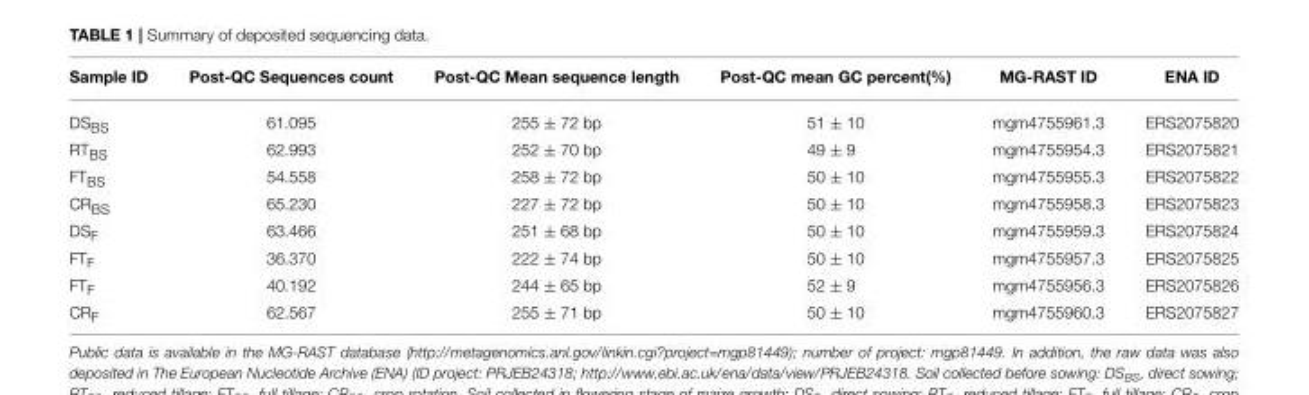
<table><thead><tr><td>Sample ID</td><td>Post-QC Sequences count</td><td>Post-QC Mean sequence length</td><td>Post-QC mean GC percent(%)</td><td>MG-RAST ID</td><td>ENA ID</td></tr></thead><tbody><tr><td>DS<sub>BS</sub></td><td>61.095</td><td>255 ± 72 bp</td><td>51 ± 10</td><td>mgm4755961.3</td><td>ERS2075820</td></tr><tr><td>RT<sub>BS</sub></td><td>62.993</td><td>252 ± 70 bp</td><td>49 ± 9</td><td>mgm4755954.3</td><td>ERS2075821</td></tr><tr><td>FT<sub>BS</sub></td><td>54.558</td><td>258 ± 72 bp</td><td>50 ± 10</td><td>mgm4755955.3</td><td>ERS2075822</td></tr><tr><td>CR<sub>BS</sub></td><td>65.230</td><td>227 ± 72 bp</td><td>50 ± 10</td><td>mgm4755958.3</td><td>ERS2075823</td></tr><tr><td>DS<sub>F</sub></td><td>63.466</td><td>251 ± 68 bp</td><td>50 ± 10</td><td>mgm4755959.3</td><td>ERS2075824</td></tr><tr><td>FT<sub>F</sub></td><td>36.370</td><td>222 ± 74 bp</td><td>50 ± 10</td><td>mgm4755957.3</td><td>ERS2075825</td></tr><tr><td>FT<sub>F</sub></td><td>40.192</td><td>244 ± 65 bp</td><td>52 ± 9</td><td>mgm4755956.3</td><td>ERS2075826</td></tr><tr><td>CR<sub>F</sub></td><td>62.567</td><td>255 ± 71 bp</td><td>50 ± 10</td><td>mgm4755960.3</td><td>ERS2075827</td></tr></tbody></table>